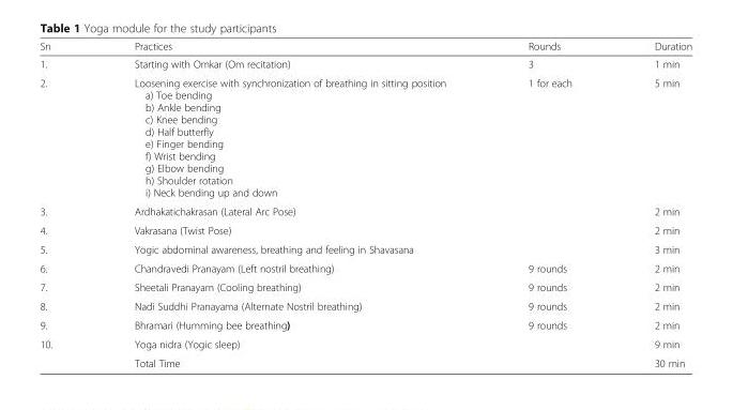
<table><thead><tr><td>Sn</td><td>Practices</td><td>Rounds</td><td>Duration</td></tr></thead><tbody><tr><td>1.</td><td>Starting with Omkar (Om recitation)</td><td>3</td><td>1 min</td></tr><tr><td>2.</td><td>Loosening exercise with synchronization of breathing in sitting position a) Toe bending b) Ankle bending c) Knee bending d) Half butterfly e) Finger bending f) Wrist bending g) Elbow bending h) Shoulder rotation i) Neck bending up and down</td><td>1 for each</td><td>5 min</td></tr><tr><td>3.</td><td>Ardhakatichakrasan (Lateral Arc Pose)</td><td></td><td>2 min</td></tr><tr><td>4.</td><td>Vakrasana (Twist Pose)</td><td></td><td>2 min</td></tr><tr><td>5.</td><td>Yogic abdominal awareness, breathing and feeling in Shavasana</td><td></td><td>3 min</td></tr><tr><td>6.</td><td>Chandravedi Pranayam (Left nostril breathing)</td><td>9 rounds</td><td>2 min</td></tr><tr><td>7.</td><td>Sheetali Pranayam (Cooling breathing)</td><td>9 rounds</td><td>2 min</td></tr><tr><td>8.</td><td>Nadi Suddhi Pranayama (Alternate Nostril breathing)</td><td>9 rounds</td><td>2 min</td></tr><tr><td>9.</td><td>Bhramari (Humming bee breathing)</td><td>9 rounds</td><td>2 min</td></tr><tr><td rowspan="2">10.</td><td>Yoga nidra (Yogic sleep)</td><td></td><td>9 min</td></tr><tr><td>Total Time</td><td></td><td>30 min</td></tr></tbody></table>